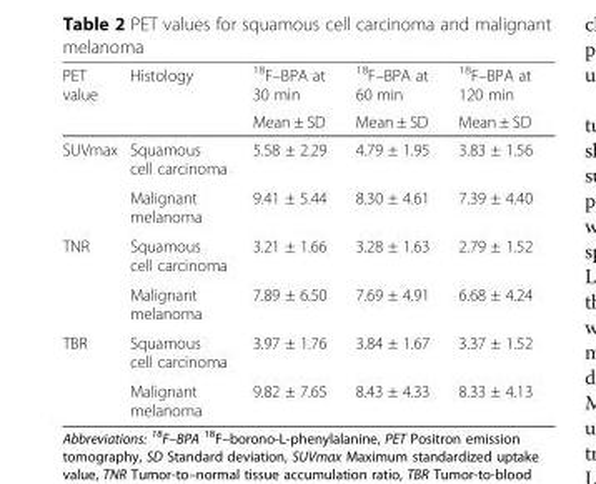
<table><thead><tr><td rowspan="2">PET value</td><td rowspan="2">Histology</td><td rowspan="2"><sup>18</sup>F–BPA at 30 min Mean ± SD</td><td rowspan="2"><sup>18</sup>F–BPA at 60 min Mean ± SD</td><td rowspan="2"><sup>18</sup>F–BPA at 120 min Mean ± SD</td></tr><tr></tr></thead><tbody><tr><td rowspan="2">SUVmax</td><td>Squamous cell carcinoma</td><td>5.58 ± 2.29</td><td>4.79 ± 1.95</td><td>3.83 ± 1.56</td></tr><tr><td>Malignant melanoma</td><td>9.41 ± 5.44</td><td>8.30 ± 4.61</td><td>7.39 ± 4.40</td></tr><tr><td rowspan="2">TNR</td><td>Squamous cell carcinoma</td><td>3.21 ± 1.66</td><td>3.28 ± 1.63</td><td>2.79 ± 1.52</td></tr><tr><td>Malignant melanoma</td><td>7.89 ± 6.50</td><td>7.69 ± 4.91</td><td>6.68 ± 4.24</td></tr><tr><td rowspan="2">TBR</td><td>Squamous cell carcinoma</td><td>3.97 ± 1.76</td><td>3.84 ± 1.67</td><td>3.37 ± 1.52</td></tr><tr><td>Malignant melanoma</td><td>9.82 ± 7.65</td><td>8.43 ± 4.33</td><td>8.33 ± 4.13</td></tr></tbody></table>